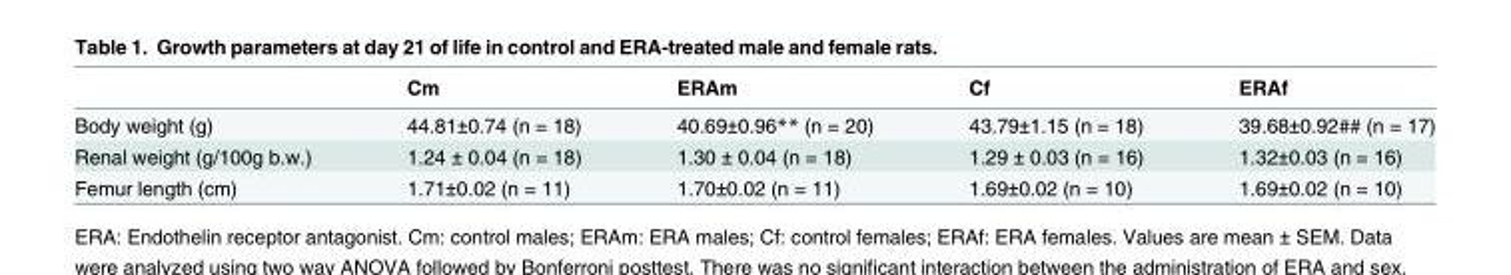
<table><thead><tr><td></td><td>Cm</td><td>ERAm</td><td>Cf</td><td>ERAf</td></tr></thead><tbody><tr><td>Body weight (g)</td><td>44.81±0.74 (n = 18)</td><td>40.69±0.96** (n = 20)</td><td>43.79±1.15 (n = 18)</td><td>39.68±0.92## (n = 17)</td></tr><tr><td>Renal weight (g/100g b.w.)</td><td>1.24 ± 0.04 (n = 18)</td><td>1.30 ± 0.04 (n = 18)</td><td>1.29 ± 0.03 (n = 16)</td><td>1.32±0.03 (n = 16)</td></tr><tr><td>Femur length (cm)</td><td>1.71±0.02 (n = 11)</td><td>1.70±0.02 (n = 11)</td><td>1.69±0.02 (n = 10)</td><td>1.69±0.02 (n = 10)</td></tr></tbody></table>